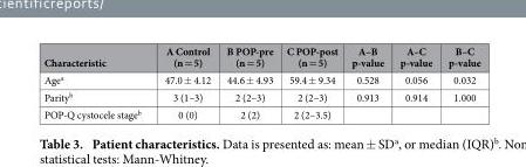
<table><thead><tr><td>Characteristic</td><td>A Control (n = 5)</td><td>B POP-pre (n = 5)</td><td>C POP-post (n = 5)</td><td>A–B p-value</td><td>A–C p-value</td><td>B–C p-value</td></tr></thead><tbody><tr><td>Age<sup>a</sup></td><td>47.0 ± 4.12</td><td>44.6 ± 4.93</td><td>59.4 ± 9.34</td><td>0.528</td><td>0.056</td><td>0.032</td></tr><tr><td>Parity<sup>b</sup></td><td>3 (1–3)</td><td>2 (2–3)</td><td>2 (2–3)</td><td>0.913</td><td>0.914</td><td>1.000</td></tr><tr><td>POP-Q cystocele stage<sup>b</sup></td><td>0 (0)</td><td>2 (2)</td><td>2 (2–3.5)</td><td></td><td></td><td></td></tr></tbody></table>